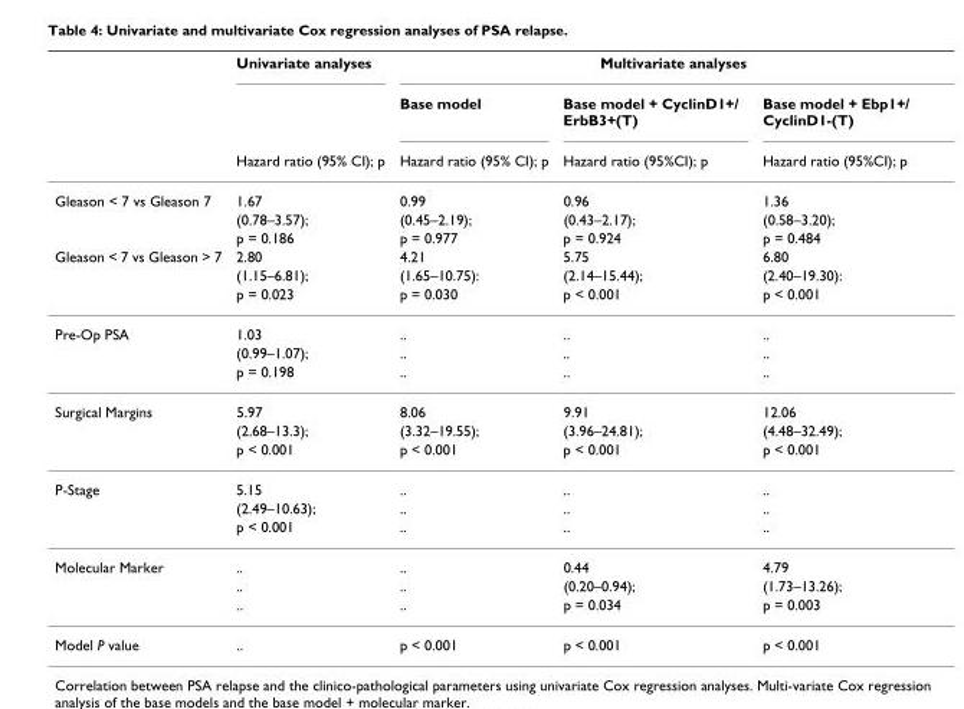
<table><thead><tr><td rowspan="3"></td><td rowspan="3">Univariate analyses Hazard ratio (95% CI); p</td><td colspan="3">Multivariate analyses</td></tr><tr><td rowspan="2">Base model Hazard ratio (95% CI); p</td><td rowspan="2">Base model + CyclinD1+/ ErbB3+(T) Hazard ratio (95%CI); p</td><td rowspan="2">Base model + Ebp1+/ CyclinD1-(T) Hazard ratio (95%CI); p</td></tr><tr></tr></thead><tbody><tr><td rowspan="3">Gleason &lt; 7 vs Gleason 7</td><td>1.67</td><td>0.99</td><td>0.96</td><td>1.36</td></tr><tr><td>(0.78–3.57);</td><td>(0.45–2.19);</td><td>(0.43–2.17);</td><td>(0.58–3.20);</td></tr><tr><td>p = 0.186</td><td>p = 0.977</td><td>p = 0.924</td><td>p = 0.484</td></tr><tr><td rowspan="3">Gleason &lt; 7 vs Gleason &gt; 7</td><td>2.80</td><td>4.21</td><td>5.75</td><td>6.80</td></tr><tr><td>(1.15–6.81);</td><td>(1.65–10.75):</td><td>(2.14–15.44);</td><td>(2.40–19.30):</td></tr><tr><td>p = 0.023</td><td>p = 0.030</td><td>p &lt; 0.001</td><td>p &lt; 0.001</td></tr><tr><td rowspan="3">Pre-Op PSA</td><td>1.03</td><td>..</td><td>..</td><td>..</td></tr><tr><td>(0.99–1.07);</td><td>..</td><td>..</td><td>..</td></tr><tr><td>p = 0.198</td><td>..</td><td>..</td><td>..</td></tr><tr><td rowspan="3">Surgical Margins</td><td>5.97</td><td>8.06</td><td>9.91</td><td>12.06</td></tr><tr><td>(2.68–13.3);</td><td>(3.32–19.55);</td><td>(3.96–24.81);</td><td>(4.48–32.49);</td></tr><tr><td>p &lt; 0.001</td><td>p &lt; 0.001</td><td>p &lt; 0.001</td><td>p &lt; 0.001</td></tr><tr><td rowspan="3">P-Stage</td><td>5.15</td><td>..</td><td>..</td><td>..</td></tr><tr><td>(2.49–10.63);</td><td>..</td><td>..</td><td>..</td></tr><tr><td>p &lt; 0.001</td><td>..</td><td>..</td><td>..</td></tr><tr><td rowspan="3">Molecular Marker</td><td>..</td><td>..</td><td>0.44</td><td>4.79</td></tr><tr><td>..</td><td>..</td><td>(0.20–0.94);</td><td>(1.73–13.26);</td></tr><tr><td>..</td><td>..</td><td>p = 0.034</td><td>p = 0.003</td></tr><tr><td>Model P value</td><td>..</td><td>p &lt; 0.001</td><td>p &lt; 0.001</td><td>p &lt; 0.001</td></tr></tbody></table>